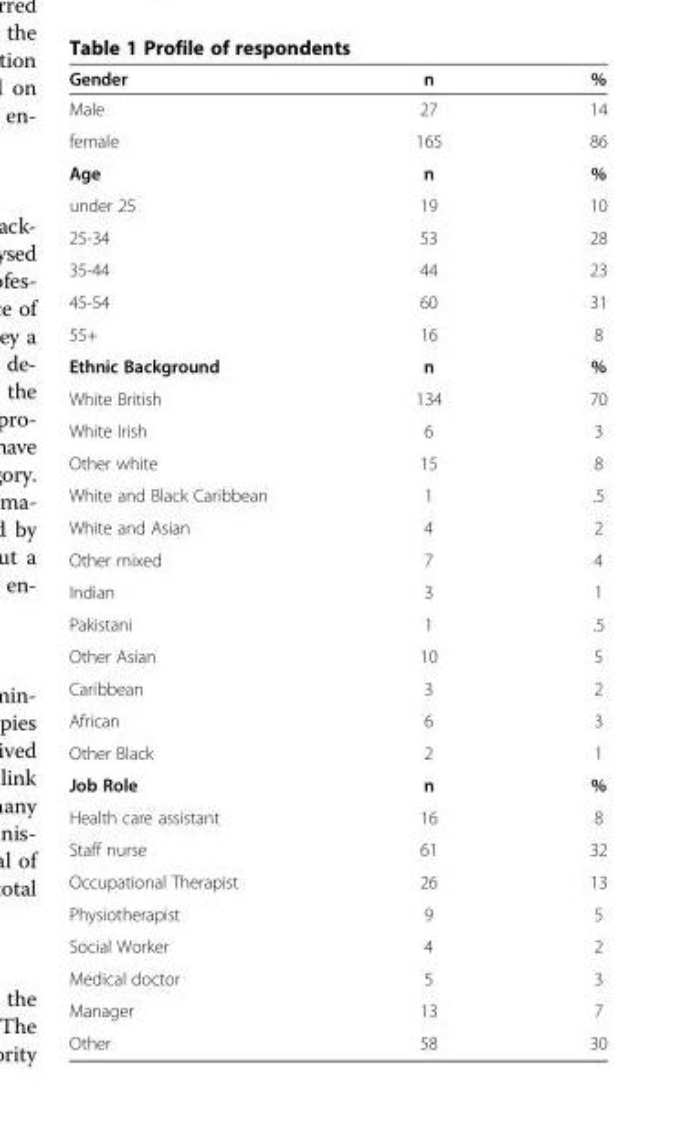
<table><thead><tr><td>Gender</td><td>n</td><td>%</td></tr></thead><tbody><tr><td>Male</td><td>27</td><td>14</td></tr><tr><td>female</td><td>165</td><td>86</td></tr><tr><td>Age</td><td>n</td><td>%</td></tr><tr><td>under 25</td><td>19</td><td>10</td></tr><tr><td>25-34</td><td>53</td><td>28</td></tr><tr><td>35-44</td><td>44</td><td>23</td></tr><tr><td>45-54</td><td>60</td><td>31</td></tr><tr><td>55+</td><td>16</td><td>8</td></tr><tr><td>Ethnic Background</td><td>n</td><td>%</td></tr><tr><td>White British</td><td>134</td><td>70</td></tr><tr><td>White Irish</td><td>6</td><td>3</td></tr><tr><td>Other white</td><td>15</td><td>8</td></tr><tr><td>White and Black Caribbean</td><td>1</td><td>.5</td></tr><tr><td>White and Asian</td><td>4</td><td>2</td></tr><tr><td>Other mixed</td><td>7</td><td>4</td></tr><tr><td>Indian</td><td>3</td><td>1</td></tr><tr><td>Pakistani</td><td>1</td><td>.5</td></tr><tr><td>Other Asian</td><td>10</td><td>5</td></tr><tr><td>Caribbean</td><td>3</td><td>2</td></tr><tr><td>African</td><td>6</td><td>3</td></tr><tr><td>Other Black</td><td>2</td><td>1</td></tr><tr><td>Job Role</td><td>n</td><td>%</td></tr><tr><td>Health care assistant</td><td>16</td><td>8</td></tr><tr><td>Staff nurse</td><td>61</td><td>32</td></tr><tr><td>Occupational Therapist</td><td>26</td><td>13</td></tr><tr><td>Physiotherapist</td><td>9</td><td>5</td></tr><tr><td>Social Worker</td><td>4</td><td>2</td></tr><tr><td>Medical doctor</td><td>5</td><td>3</td></tr><tr><td>Manager</td><td>13</td><td>7</td></tr><tr><td>Other</td><td>58</td><td>30</td></tr></tbody></table>